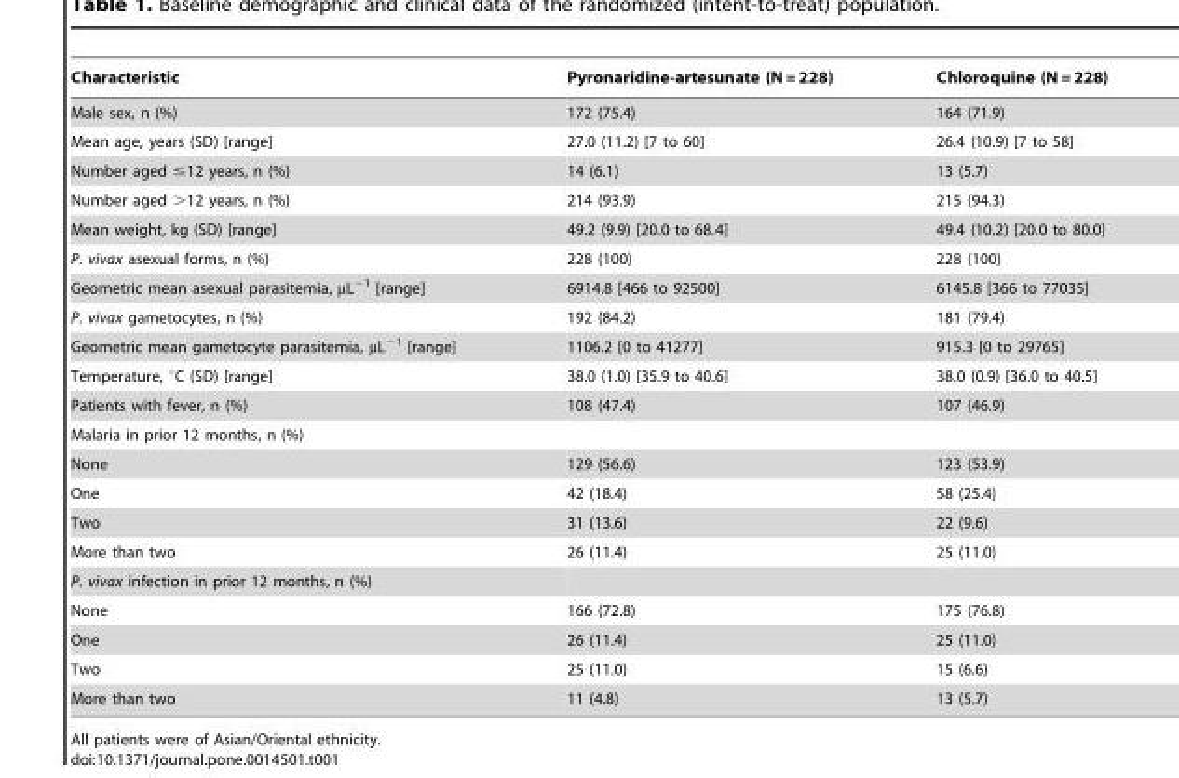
<table><thead><tr><td>Characteristic</td><td>Pyronaridine-artesunate (N = 228)</td><td>Chloroquine (N = 228)</td></tr></thead><tbody><tr><td>Male sex, n (%)</td><td>172 (75.4)</td><td>164 (71.9)</td></tr><tr><td>Mean age, years (SD) [range]</td><td>27.0 (11.2) [7 to 60]</td><td>26.4 (10.9) [7 to 58]</td></tr><tr><td>Number aged ≤12 years, n (%)</td><td>14 (6.1)</td><td>13 (5.7)</td></tr><tr><td>Number aged &gt;12 years, n (%)</td><td>214 (93.9)</td><td>215 (94.3)</td></tr><tr><td>Mean weight, kg (SD) [range]</td><td>49.2 (9.9) [20.0 to 68.4]</td><td>49.4 (10.2) [20.0 to 80.0]</td></tr><tr><td>P. vivax asexual forms, n (%)</td><td>228 (100)</td><td>228 (100)</td></tr><tr><td>Geometric mean asexual parasitemia, µL<sup>−1</sup> [range]</td><td>6914.8 [466 to 92500]</td><td>6145.8 [366 to 77035]</td></tr><tr><td>P. vivax gametocytes, n (%)</td><td>192 (84.2)</td><td>181 (79.4)</td></tr><tr><td>Geometric mean gametocyte parasitemia, µL<sup>−1</sup> [range]</td><td>1106.2 [0 to 41277]</td><td>915.3 [0 to 29765]</td></tr><tr><td>Temperature, °C (SD) [range]</td><td>38.0 (1.0) [35.9 to 40.6]</td><td>38.0 (0.9) [36.0 to 40.5]</td></tr><tr><td>Patients with fever, n (%)</td><td>108 (47.4)</td><td>107 (46.9)</td></tr><tr><td colspan="3">Malaria in prior 12 months, n (%)</td></tr><tr><td>None</td><td>129 (56.6)</td><td>123 (53.9)</td></tr><tr><td>One</td><td>42 (18.4)</td><td>58 (25.4)</td></tr><tr><td>Two</td><td>31 (13.6)</td><td>22 (9.6)</td></tr><tr><td>More than two</td><td>26 (11.4)</td><td>25 (11.0)</td></tr><tr><td colspan="3">P. vivax infection in prior 12 months, n (%)</td></tr><tr><td>None</td><td>166 (72.8)</td><td>175 (76.8)</td></tr><tr><td>One</td><td>26 (11.4)</td><td>25 (11.0)</td></tr><tr><td>Two</td><td>25 (11.0)</td><td>15 (6.6)</td></tr><tr><td>More than two</td><td>11 (4.8)</td><td>13 (5.7)</td></tr></tbody></table>